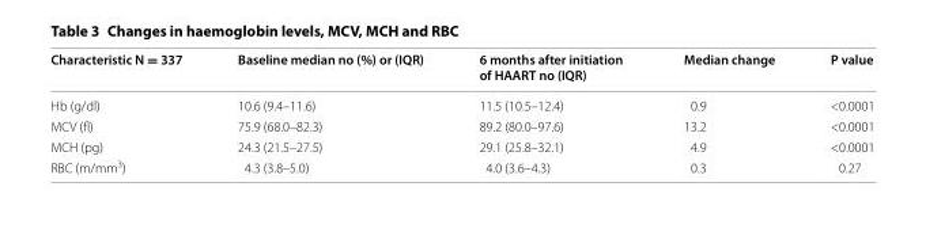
<table><thead><tr><td>Characteristic N = 337</td><td>Baseline median no (%) or (IQR)</td><td>6 months after initiation of HAART no (IQR)</td><td>Median change</td><td>P value</td></tr></thead><tbody><tr><td>Hb (g/dl)</td><td>10.6 (9.4–11.6)</td><td>11.5 (10.5–12.4)</td><td>0.9</td><td>&lt;0.0001</td></tr><tr><td>MCV (fl)</td><td>75.9 (68.0–82.3)</td><td>89.2 (80.0–97.6)</td><td>13.2</td><td>&lt;0.0001</td></tr><tr><td>MCH (pg)</td><td>24.3 (21.5–27.5)</td><td>29.1 (25.8–32.1)</td><td>4.9</td><td>&lt;0.0001</td></tr><tr><td>RBC (m/mm<sup>3</sup>)</td><td>4.3 (3.8–5.0)</td><td>4.0 (3.6–4.3)</td><td>0.3</td><td>0.27</td></tr></tbody></table>